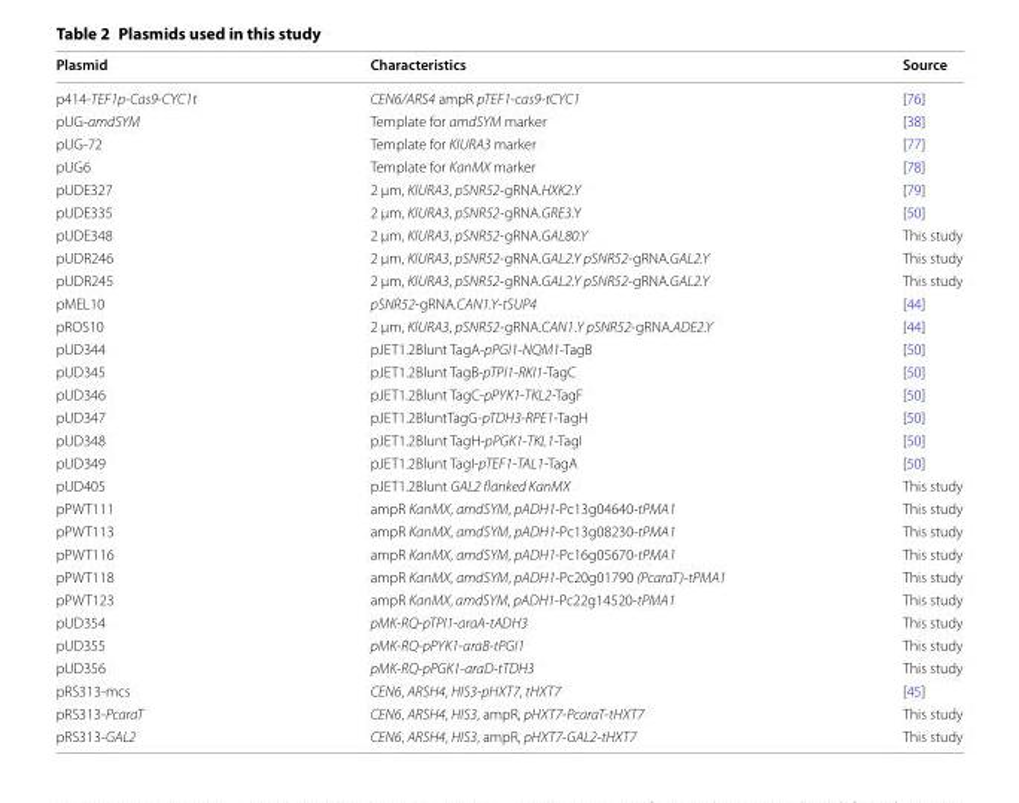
<table><thead><tr><td>Plasmid</td><td>Characteristics</td><td>Source</td></tr></thead><tbody><tr><td>p414‑TEF1p‑Cas9‑CYC1t</td><td>CEN6/ARS4 ampR pTEF1‑cas9‑tCYC1</td><td>[76]</td></tr><tr><td>pUG‑amdSYM</td><td>Template for amdSYM marker</td><td>[38]</td></tr><tr><td>pUG‑72</td><td>Template for KlURA3 marker</td><td>[77]</td></tr><tr><td>pUG6</td><td>Template for KanMX marker</td><td>[78]</td></tr><tr><td>pUDE327</td><td>2 μm, KlURA3, pSNR52‑gRNA.HXK2.Y</td><td>[79]</td></tr><tr><td>pUDE335</td><td>2 μm, KlURA3, pSNR52‑gRNA.GRE3.Y</td><td>[50]</td></tr><tr><td>pUDE348</td><td>2 μm, KlURA3, pSNR52‑gRNA.GAL80.Y</td><td>This study</td></tr><tr><td>pUDR246</td><td>2 μm, KlURA3, pSNR52‑gRNA.GAL2.Y pSNR52‑gRNA.GAL2.Y</td><td>This study</td></tr><tr><td>pUDR245</td><td>2 μm, KlURA3, pSNR52‑gRNA.GAL2.Y pSNR52‑gRNA.GAL2.Y</td><td>This study</td></tr><tr><td>pMEL10</td><td>pSNR52‑gRNA.CAN1.Y‑tSUP4</td><td>[44]</td></tr><tr><td>pROS10</td><td>2 μm, KlURA3, pSNR52‑gRNA.CAN1.Y pSNR52‑gRNA.ADE2.Y</td><td>[44]</td></tr><tr><td>pUD344</td><td>pJET1.2Blunt TagA‑pPGI1‑NQM1‑TagB</td><td>[50]</td></tr><tr><td>pUD345</td><td>pJET1.2Blunt TagB‑pTPI1‑RKI1‑TagC</td><td>[50]</td></tr><tr><td>pUD346</td><td>pJET1.2Blunt TagC‑pPYK1‑TKL2‑TagF</td><td>[50]</td></tr><tr><td>pUD347</td><td>pJET1.2BluntTagG‑pTDH3‑RPE1‑TagH</td><td>[50]</td></tr><tr><td>pUD348</td><td>pJET1.2Blunt TagH‑pPGK1‑TKL1‑TagI</td><td>[50]</td></tr><tr><td>pUD349</td><td>pJET1.2Blunt TagI‑pTEF1‑TAL1‑TagA</td><td>[50]</td></tr><tr><td>pUD405</td><td>pJET1.2Blunt GAL2 flanked KanMX</td><td>This study</td></tr><tr><td>pPWT111</td><td>ampR KanMX, amdSYM, pADH1‑Pc13g04640‑tPMA1</td><td>This study</td></tr><tr><td>pPWT113</td><td>ampR KanMX, amdSYM, pADH1‑Pc13g08230‑tPMA1</td><td>This study</td></tr><tr><td>pPWT116</td><td>ampR KanMX, amdSYM, pADH1‑Pc16g05670‑tPMA1</td><td>This study</td></tr><tr><td>pPWT118</td><td>ampR KanMX, amdSYM, pADH1‑Pc20g01790 (PcaraT)‑tPMA1</td><td>This study</td></tr><tr><td>pPWT123</td><td>ampR KanMX, amdSYM, pADH1‑Pc22g14520‑tPMA1</td><td>This study</td></tr><tr><td>pUD354</td><td>pMK‑RQ‑pTPI1‑araA‑tADH3</td><td>This study</td></tr><tr><td>pUD355</td><td>pMK‑RQ‑pPYK1‑araB‑tPGI1</td><td>This study</td></tr><tr><td>pUD356</td><td>pMK‑RQ‑pPGK1‑araD‑tTDH3</td><td>This study</td></tr><tr><td>pRS313‑mcs</td><td>CEN6, ARSH4, HIS3‑pHXT7, tHXT7</td><td>[45]</td></tr><tr><td>pRS313‑PcaraT</td><td>CEN6, ARSH4, HIS3, ampR, pHXT7‑PcaraT‑tHXT7</td><td>This study</td></tr><tr><td>pRS313‑GAL2</td><td>CEN6, ARSH4, HIS3, ampR, pHXT7‑GAL2‑tHXT7</td><td>This study</td></tr></tbody></table>